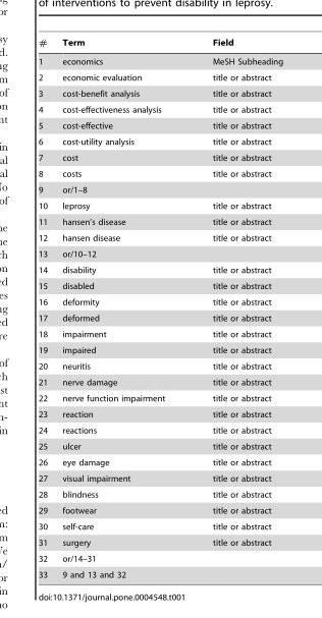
<table><thead><tr><td>#</td><td>Term</td><td>Field</td></tr></thead><tbody><tr><td>1</td><td>economics</td><td>MeSH Subheading</td></tr><tr><td>2</td><td>economic evaluation</td><td>title or abstract</td></tr><tr><td>3</td><td>cost-benefit analysis</td><td>title or abstract</td></tr><tr><td>4</td><td>cost-effectiveness analysis</td><td>title or abstract</td></tr><tr><td>5</td><td>cost-effective</td><td>title or abstract</td></tr><tr><td>6</td><td>cost-utility analysis</td><td>title or abstract</td></tr><tr><td>7</td><td>cost</td><td>title or abstract</td></tr><tr><td>8</td><td>costs</td><td>title or abstract</td></tr><tr><td>9</td><td>or/1–8</td><td></td></tr><tr><td>10</td><td>leprosy</td><td>title or abstract</td></tr><tr><td>11</td><td>hansen’s disease</td><td>title or abstract</td></tr><tr><td>12</td><td>hansen disease</td><td>title or abstract</td></tr><tr><td>13</td><td>or/10–12</td><td></td></tr><tr><td>14</td><td>disability</td><td>title or abstract</td></tr><tr><td>15</td><td>disabled</td><td>title or abstract</td></tr><tr><td>16</td><td>deformity</td><td>title or abstract</td></tr><tr><td>17</td><td>deformed</td><td>title or abstract</td></tr><tr><td>18</td><td>impairment</td><td>title or abstract</td></tr><tr><td>19</td><td>impaired</td><td>title or abstract</td></tr><tr><td>20</td><td>neuritis</td><td>title or abstract</td></tr><tr><td>21</td><td>nerve damage</td><td>title or abstract</td></tr><tr><td>22</td><td>nerve function impairment</td><td>title or abstract</td></tr><tr><td>23</td><td>reaction</td><td>title or abstract</td></tr><tr><td>24</td><td>reactions</td><td>title or abstract</td></tr><tr><td>25</td><td>ulcer</td><td>title or abstract</td></tr><tr><td>26</td><td>eye damage</td><td>title or abstract</td></tr><tr><td>27</td><td>visual impairment</td><td>title or abstract</td></tr><tr><td>28</td><td>blindness</td><td>title or abstract</td></tr><tr><td>29</td><td>footwear</td><td>title or abstract</td></tr><tr><td>30</td><td>self-care</td><td>title or abstract</td></tr><tr><td>31</td><td>surgery</td><td>title or abstract</td></tr><tr><td>32</td><td>or/14–31</td><td></td></tr><tr><td>33</td><td>9 and 13 and 32</td><td></td></tr></tbody></table>